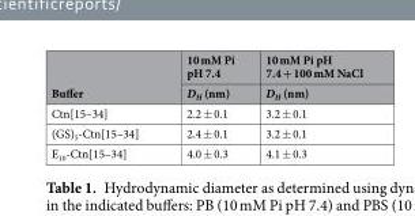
<table><thead><tr><td rowspan="2">Buffer</td><td rowspan="2">10 mM Pi pH 7.4 D<sub>H</sub> (nm)</td><td rowspan="2">10 mM Pi pH 7.4 + 100 mM NaCl D<sub>H</sub> (nm)</td></tr><tr></tr></thead><tbody><tr><td>Ctn[15–34]</td><td>2.2 ± 0.1</td><td>3.2 ± 0.1</td></tr><tr><td>(GS)<sub>5</sub>-Ctn[15–34]</td><td>2.4 ± 0.1</td><td>3.2 ± 0.1</td></tr><tr><td>E<sub>10</sub>-Ctn[15–34]</td><td>4.0 ± 0.3</td><td>4.1 ± 0.3</td></tr></tbody></table>